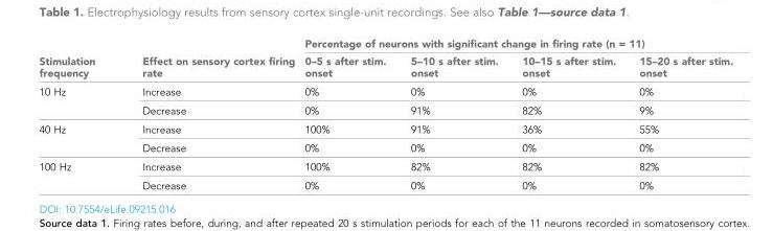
<table><thead><tr><td rowspan="2">Stimulation frequency</td><td rowspan="2">Effect on sensory cortex firing rate</td><td colspan="4">Percentage of neurons with significant change in firing rate (n = 11)</td></tr><tr><td>0–5 s after stim. onset</td><td>5–10 s after stim. onset</td><td>10–15 s after stim. onset</td><td>15–20 s after stim. onset</td></tr></thead><tbody><tr><td rowspan="2">10 Hz</td><td>Increase</td><td>0%</td><td>0%</td><td>0%</td><td>0%</td></tr><tr><td>Decrease</td><td>0%</td><td>91%</td><td>82%</td><td>9%</td></tr><tr><td rowspan="2">40 Hz</td><td>Increase</td><td>100%</td><td>91%</td><td>36%</td><td>55%</td></tr><tr><td>Decrease</td><td>0%</td><td>0%</td><td>0%</td><td>0%</td></tr><tr><td rowspan="2">100 Hz</td><td>Increase</td><td>100%</td><td>82%</td><td>82%</td><td>82%</td></tr><tr><td>Decrease</td><td>0%</td><td>0%</td><td>0%</td><td>0%</td></tr></tbody></table>